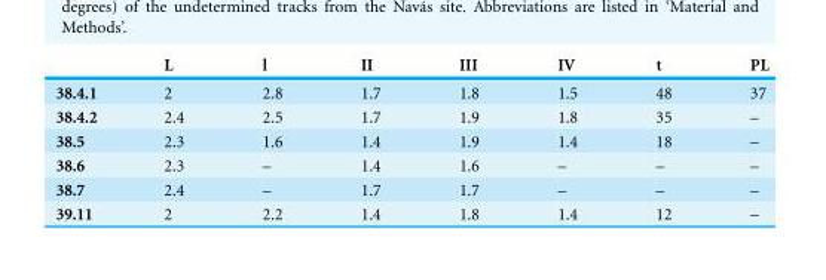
<table><thead><tr><td></td><td>L</td><td>l</td><td>II</td><td>III</td><td>IV</td><td>t</td><td>PL</td></tr></thead><tbody><tr><td>38.4.1</td><td>2</td><td>2.8</td><td>1.7</td><td>1.8</td><td>1.5</td><td>48</td><td>37</td></tr><tr><td>38.4.2</td><td>2.4</td><td>2.5</td><td>1.7</td><td>1.9</td><td>1.8</td><td>35</td><td>–</td></tr><tr><td>38.5</td><td>2.3</td><td>1.6</td><td>1.4</td><td>1.9</td><td>1.4</td><td>18</td><td>–</td></tr><tr><td>38.6</td><td>2.3</td><td>–</td><td>1.4</td><td>1.6</td><td>–</td><td>–</td><td>–</td></tr><tr><td>38.7</td><td>2.4</td><td>–</td><td>1.7</td><td>1.7</td><td>–</td><td>–</td><td>–</td></tr><tr><td>39.11</td><td>2</td><td>2.2</td><td>1.4</td><td>1.8</td><td>1.4</td><td>12</td><td>–</td></tr></tbody></table>